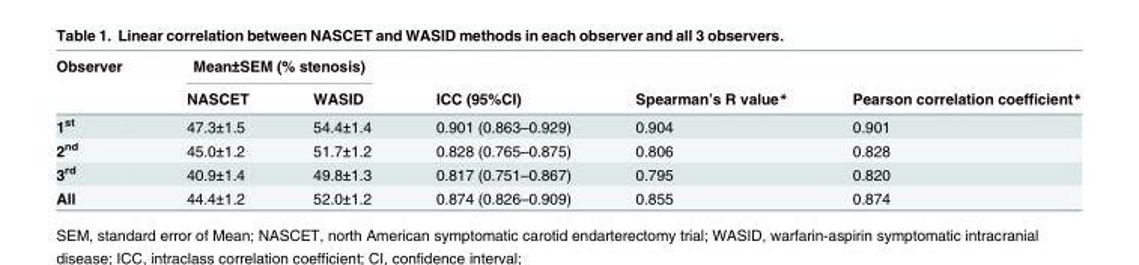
<table><thead><tr><td rowspan="2">Observer</td><td colspan="2">Mean±SEM (% stenosis)</td><td rowspan="2">ICC (95%CI)</td><td rowspan="2">Spearman’s R value*</td><td rowspan="2">Pearson correlation coefficient*</td></tr><tr><td>NASCET</td><td>WASID</td></tr></thead><tbody><tr><td>1<sup>st</sup></td><td>47.3±1.5</td><td>54.4±1.4</td><td>0.901 (0.863–0.929)</td><td>0.904</td><td>0.901</td></tr><tr><td>2<sup>nd</sup></td><td>45.0±1.2</td><td>51.7±1.2</td><td>0.828 (0.765–0.875)</td><td>0.806</td><td>0.828</td></tr><tr><td>3<sup>rd</sup></td><td>40.9±1.4</td><td>49.8±1.3</td><td>0.817 (0.751–0.867)</td><td>0.795</td><td>0.820</td></tr><tr><td>All</td><td>44.4±1.2</td><td>52.0±1.2</td><td>0.874 (0.826–0.909)</td><td>0.855</td><td>0.874</td></tr></tbody></table>